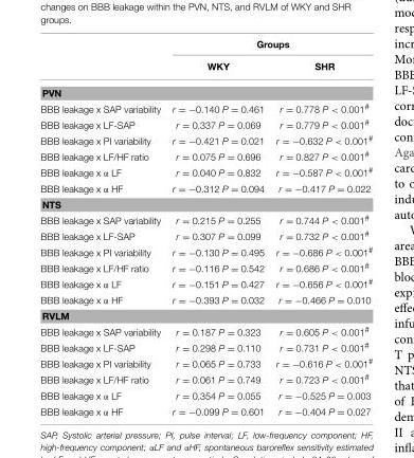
<table><thead><tr><td rowspan="2"></td><td colspan="2">Groups</td></tr><tr><td>WKY</td><td>SHR</td></tr></thead><tbody><tr><td colspan="3">PVN</td></tr><tr><td>BBB leakage x SAP variability</td><td>r = −0.140 P = 0.461</td><td>r = 0.778 P &lt; 0.001<sup>#</sup></td></tr><tr><td>BBB leakage x LF-SAP</td><td>r = 0.337 P = 0.069</td><td>r = 0.779 P &lt; 0.001<sup>#</sup></td></tr><tr><td>BBB leakage x PI variability</td><td>r = −0.421 P = 0.021</td><td>r = −0.632 P &lt; 0.001<sup>#</sup></td></tr><tr><td>BBB leakage x LF/HF ratio</td><td>r = 0.075 P = 0.696</td><td>r = 0.827 P &lt; 0.001<sup>#</sup></td></tr><tr><td>BBB leakage x α LF</td><td>r = 0.040 P = 0.832</td><td>r = −0.587 P &lt; 0.001<sup>#</sup></td></tr><tr><td>BBB leakage x α HF</td><td>r = −0.312 P = 0.094</td><td>r = −0.417 P = 0.022</td></tr><tr><td colspan="3">NTS</td></tr><tr><td>BBB leakage x SAP variability</td><td>r = 0.215 P = 0.255</td><td>r = 0.744 P &lt; 0.001<sup>#</sup></td></tr><tr><td>BBB leakage x LF-SAP</td><td>r = 0.307 P = 0.099</td><td>r = 0.732 P &lt; 0.001<sup>#</sup></td></tr><tr><td>BBB leakage x PI variability</td><td>r = −0.130 P = 0.495</td><td>r = −0.686 P &lt; 0.001<sup>#</sup></td></tr><tr><td>BBB leakage x LF/HF ratio</td><td>r = −0.116 P = 0.542</td><td>r = 0.686 P &lt; 0.001<sup>#</sup></td></tr><tr><td>BBB leakage x α LF</td><td>r = −0.151 P = 0.427</td><td>r = −0.656 P &lt; 0.001<sup>#</sup></td></tr><tr><td>BBB leakage x α HF</td><td>r = −0.393 P = 0.032</td><td>r = −0.466 P = 0.010</td></tr><tr><td colspan="3">RVLM</td></tr><tr><td>BBB leakage x SAP variability</td><td>r = 0.187 P = 0.323</td><td>r = 0.605 P &lt; 0.001<sup>#</sup></td></tr><tr><td>BBB leakage x LF-SAP</td><td>r = 0.298 P = 0.110</td><td>r = 0.731 P &lt; 0.001<sup>#</sup></td></tr><tr><td>BBB leakage x PI variability</td><td>r = 0.065 P = 0.733</td><td>r = −0.616 P &lt; 0.001<sup>#</sup></td></tr><tr><td>BBB leakage x LF/HF ratio</td><td>r = 0.061 P = 0.749</td><td>r = 0.723 P &lt; 0.001<sup>#</sup></td></tr><tr><td>BBB leakage x α LF</td><td>r = 0.354 P = 0.055</td><td>r = −0.525 P = 0.003</td></tr><tr><td>BBB leakage x α HF</td><td>r = −0.099 P = 0.601</td><td>r = −0.404 P = 0.027</td></tr></tbody></table>